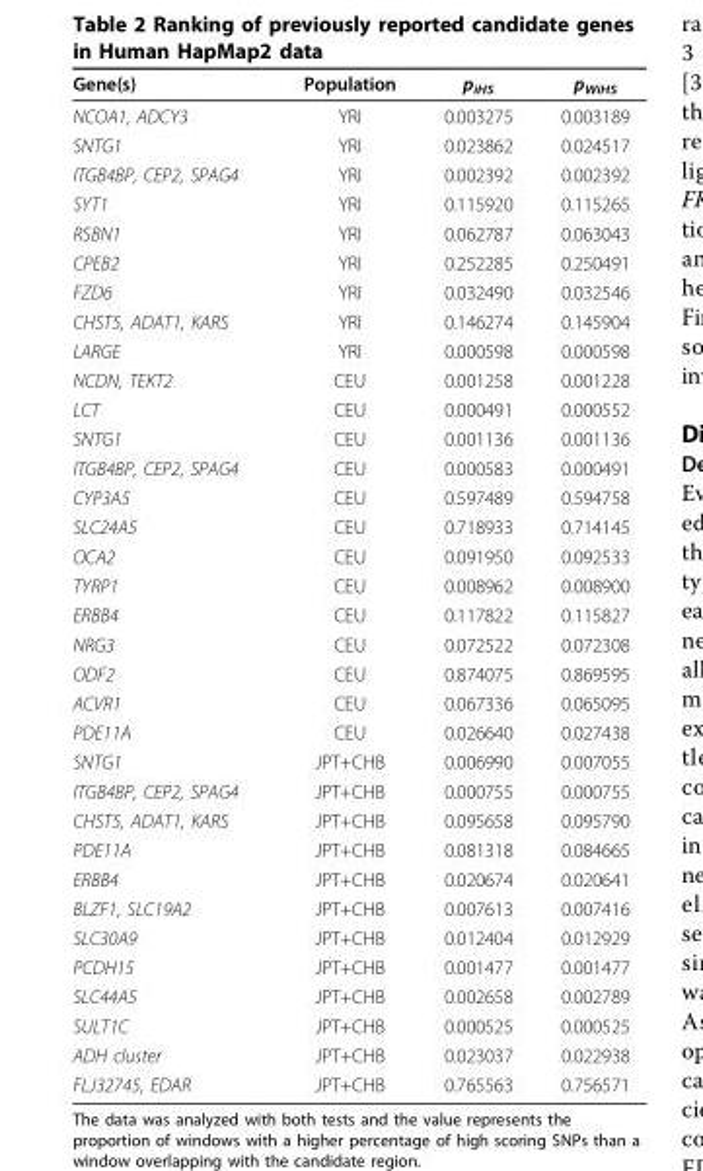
<table><thead><tr><td>Gene(s)</td><td>Population</td><td>p<sub>iHS</sub></td><td>p<sub>WiHS</sub></td></tr></thead><tbody><tr><td>NCOA1, ADCY3</td><td>YRI</td><td>0.003275</td><td>0.003189</td></tr><tr><td>SNTG1</td><td>YRI</td><td>0.023862</td><td>0.024517</td></tr><tr><td>ITGB4BP, CEP2, SPAG4</td><td>YRI</td><td>0.002392</td><td>0.002392</td></tr><tr><td>SYT1</td><td>YRI</td><td>0.115920</td><td>0.115265</td></tr><tr><td>RSBN1</td><td>YRI</td><td>0.062787</td><td>0.063043</td></tr><tr><td>CPEB2</td><td>YRI</td><td>0.252285</td><td>0.250491</td></tr><tr><td>FZD6</td><td>YRI</td><td>0.032490</td><td>0.032546</td></tr><tr><td>CHST5, ADAT1, KARS</td><td>YRI</td><td>0.146274</td><td>0.145904</td></tr><tr><td>LARGE</td><td>YRI</td><td>0.000598</td><td>0.000598</td></tr><tr><td>NCDN, TEKT2</td><td>CEU</td><td>0.001258</td><td>0.001228</td></tr><tr><td>LCT</td><td>CEU</td><td>0.000491</td><td>0.000552</td></tr><tr><td>SNTG1</td><td>CEU</td><td>0.001136</td><td>0.001136</td></tr><tr><td>ITGB4BP, CEP2, SPAG4</td><td>CEU</td><td>0.000583</td><td>0.000491</td></tr><tr><td>CYP3A5</td><td>CEU</td><td>0.597489</td><td>0.594758</td></tr><tr><td>SLC24A5</td><td>CEU</td><td>0.718933</td><td>0.714145</td></tr><tr><td>OCA2</td><td>CEU</td><td>0.091950</td><td>0.092533</td></tr><tr><td>TYRP1</td><td>CEU</td><td>0.008962</td><td>0.008900</td></tr><tr><td>ERBB4</td><td>CEU</td><td>0.117822</td><td>0.115827</td></tr><tr><td>NRG3</td><td>CEU</td><td>0.072522</td><td>0.072308</td></tr><tr><td>ODF2</td><td>CEU</td><td>0.874075</td><td>0.869595</td></tr><tr><td>ACVR1</td><td>CEU</td><td>0.067336</td><td>0.065095</td></tr><tr><td>PDE11A</td><td>CEU</td><td>0.026640</td><td>0.027438</td></tr><tr><td>SNTG1</td><td>JPT+CHB</td><td>0.006990</td><td>0.007055</td></tr><tr><td>ITGB4BP, CEP2, SPAG4</td><td>JPT+CHB</td><td>0.000755</td><td>0.000755</td></tr><tr><td>CHST5, ADAT1, KARS</td><td>JPT+CHB</td><td>0.095658</td><td>0.095790</td></tr><tr><td>PDE11A</td><td>JPT+CHB</td><td>0.081318</td><td>0.084665</td></tr><tr><td>ERBB4</td><td>JPT+CHB</td><td>0.020674</td><td>0.020641</td></tr><tr><td>BLZF1, SLC19A2</td><td>JPT+CHB</td><td>0.007613</td><td>0.007416</td></tr><tr><td>SLC30A9</td><td>JPT+CHB</td><td>0.012404</td><td>0.012929</td></tr><tr><td>PCDH15</td><td>JPT+CHB</td><td>0.001477</td><td>0.001477</td></tr><tr><td>SLC44A5</td><td>JPT+CHB</td><td>0.002658</td><td>0.002789</td></tr><tr><td>SULT1C</td><td>JPT+CHB</td><td>0.000525</td><td>0.000525</td></tr><tr><td>ADH cluster</td><td>JPT+CHB</td><td>0.023037</td><td>0.022938</td></tr><tr><td>FLJ32745, EDAR</td><td>JPT+CHB</td><td>0.765563</td><td>0.756571</td></tr></tbody></table>